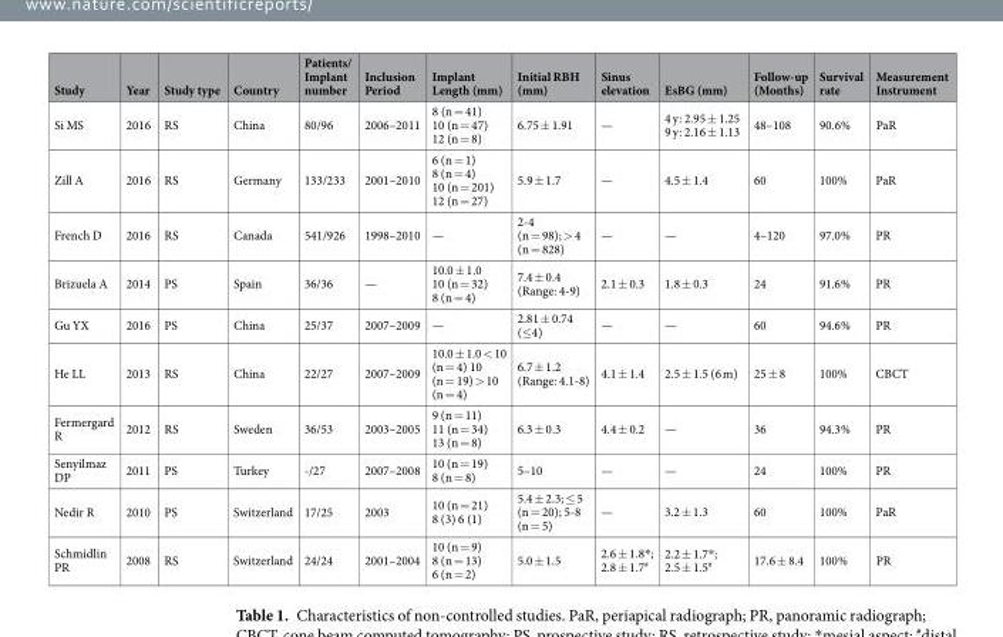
<table><thead><tr><td>Study</td><td>Year</td><td>Study type</td><td>Country</td><td>Patients/ Implant number</td><td>Inclusion Period</td><td>Implant Length (mm)</td><td>Initial RBH (mm)</td><td>Sinus elevation</td><td>EsBG (mm)</td><td>Follow-up (Months)</td><td>Survival rate</td><td>Measurement Instrument</td></tr></thead><tbody><tr><td>Si MS</td><td>2016</td><td>RS</td><td>China</td><td>80/96</td><td>2006–2011</td><td>8 (n = 41) 10 (n = 47) 12 (n = 8)</td><td>6.75 ± 1.91</td><td>—</td><td>4 y: 2.95 ± 1.25 9 y: 2.16 ± 1.13</td><td>48–108</td><td>90.6%</td><td>PaR</td></tr><tr><td>Zill A</td><td>2016</td><td>RS</td><td>Germany</td><td>133/233</td><td>2001–2010</td><td>6 (n = 1) 8 (n = 4) 10 (n = 201) 12 (n = 27)</td><td>5.9 ± 1.7</td><td>—</td><td>4.5 ± 1.4</td><td>60</td><td>100%</td><td>PaR</td></tr><tr><td>French D</td><td>2016</td><td>RS</td><td>Canada</td><td>541/926</td><td>1998–2010</td><td>—</td><td>2-4 (n = 98); &gt; 4 (n = 828)</td><td>—</td><td>—</td><td>4–120</td><td>97.0%</td><td>PR</td></tr><tr><td>Brizuela A</td><td>2014</td><td>PS</td><td>Spain</td><td>36/36</td><td>—</td><td>10.0 ± 1.0 10 (n = 32) 8 (n = 4)</td><td>7.4 ± 0.4 (Range: 4-9)</td><td>2.1 ± 0.3</td><td>1.8 ± 0.3</td><td>24</td><td>91.6%</td><td>PR</td></tr><tr><td>Gu YX</td><td>2016</td><td>PS</td><td>China</td><td>25/37</td><td>2007–2009</td><td>—</td><td>2.81 ± 0.74 (≤4)</td><td>—</td><td>—</td><td>60</td><td>94.6%</td><td>PR</td></tr><tr><td>He LL</td><td>2013</td><td>RS</td><td>China</td><td>22/27</td><td>2007–2009</td><td>10.0 ± 1.0 &lt; 10 (n = 4) 10 (n = 19) &gt; 10 (n = 4)</td><td>6.7 ± 1.2 (Range: 4.1-8)</td><td>4.1 ± 1.4</td><td>2.5 ± 1.5 (6 m)</td><td>25 ± 8</td><td>100%</td><td>CBCT</td></tr><tr><td>Fermergard R</td><td>2012</td><td>RS</td><td>Sweden</td><td>36/53</td><td>2003–2005</td><td>9 (n = 11) 11 (n = 34) 13 (n = 8)</td><td>6.3 ± 0.3</td><td>4.4 ± 0.2</td><td>—</td><td>36</td><td>94.3%</td><td>PR</td></tr><tr><td>Senyilmaz DP</td><td>2011</td><td>PS</td><td>Turkey</td><td>-/27</td><td>2007–2008</td><td>10 (n = 19) 8 (n = 8)</td><td>5–10</td><td>—</td><td>—</td><td>24</td><td>100%</td><td>PR</td></tr><tr><td>Nedir R</td><td>2010</td><td>PS</td><td>Switzerland</td><td>17/25</td><td>2003</td><td>10 (n = 21) 8 (3) 6 (1)</td><td>5.4 ± 2.3; ≤ 5 (n = 20); 5-8 (n = 5)</td><td>—</td><td>3.2 ± 1.3</td><td>60</td><td>100%</td><td>PaR</td></tr><tr><td>Schmidlin PR</td><td>2008</td><td>RS</td><td>Switzerland</td><td>24/24</td><td>2001–2004</td><td>10 (n = 9) 8 (n = 13) 6 (n = 2)</td><td>5.0 ± 1.5</td><td>2.6 ± 1.8*; 2.8 ± 1.7<sup>#</sup></td><td>2.2 ± 1.7*; 2.5 ± 1.5<sup>#</sup></td><td>17.6 ± 8.4</td><td>100%</td><td>PR</td></tr></tbody></table>